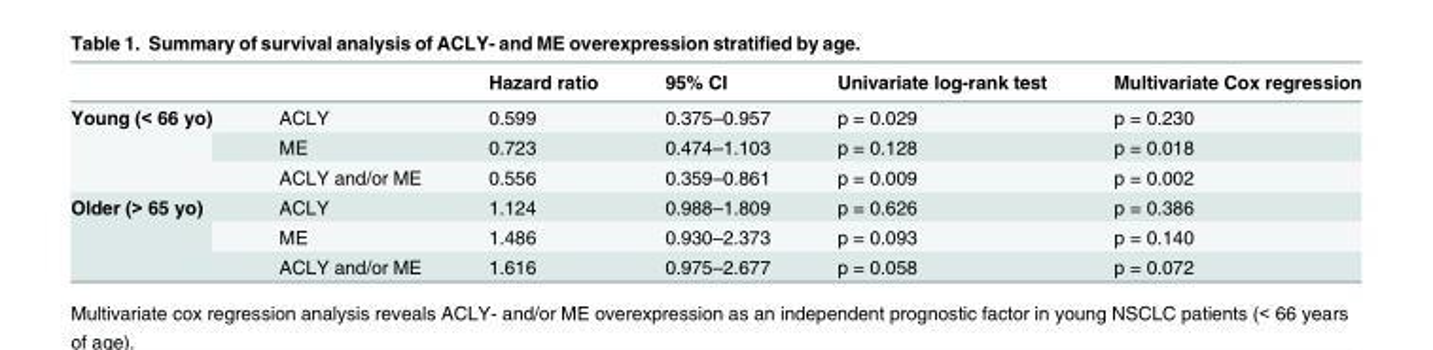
<table><thead><tr><td></td><td></td><td>Hazard ratio</td><td>95% CI</td><td>Univariate log-rank test</td><td>Multivariate Cox regression</td></tr></thead><tbody><tr><td rowspan="3">Young (&lt; 66 yo)</td><td>ACLY</td><td>0.599</td><td>0.375–0.957</td><td>p = 0.029</td><td>p = 0.230</td></tr><tr><td>ME</td><td>0.723</td><td>0.474–1.103</td><td>p = 0.128</td><td>p = 0.018</td></tr><tr><td>ACLY and/or ME</td><td>0.556</td><td>0.359–0.861</td><td>p = 0.009</td><td>p = 0.002</td></tr><tr><td rowspan="3">Older (&gt; 65 yo)</td><td>ACLY</td><td>1.124</td><td>0.988–1.809</td><td>p = 0.626</td><td>p = 0.386</td></tr><tr><td>ME</td><td>1.486</td><td>0.930–2.373</td><td>p = 0.093</td><td>p = 0.140</td></tr><tr><td>ACLY and/or ME</td><td>1.616</td><td>0.975–2.677</td><td>p = 0.058</td><td>p = 0.072</td></tr></tbody></table>